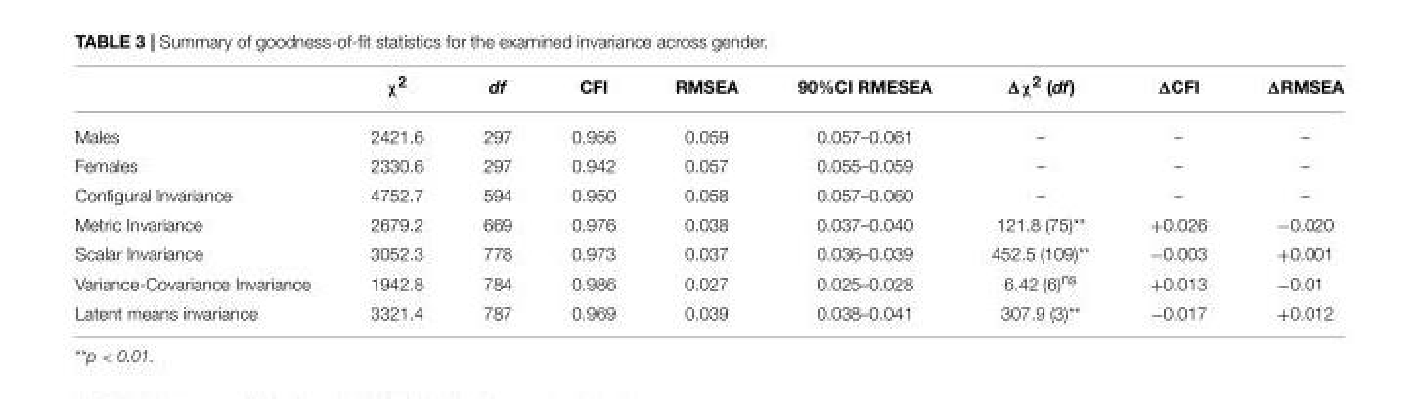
<table><thead><tr><td></td><td>χ<sup>2</sup></td><td>df</td><td>CFI</td><td>RMSEA</td><td>90%CI RMESEA</td><td>Δχ<sup>2</sup> (df)</td><td>ΔCFI</td><td>ΔRMSEA</td></tr></thead><tbody><tr><td>Males</td><td>2421.6</td><td>297</td><td>0.956</td><td>0.059</td><td>0.057–0.061</td><td>–</td><td>–</td><td>–</td></tr><tr><td>Females</td><td>2330.6</td><td>297</td><td>0.942</td><td>0.057</td><td>0.055–0.059</td><td>–</td><td>–</td><td>–</td></tr><tr><td>Configural Invariance</td><td>4752.7</td><td>594</td><td>0.950</td><td>0.058</td><td>0.057–0.060</td><td>–</td><td>–</td><td>–</td></tr><tr><td>Metric Invariance</td><td>2679.2</td><td>669</td><td>0.976</td><td>0.038</td><td>0.037–0.040</td><td>121.8 (75)**</td><td>+0.026</td><td>−0.020</td></tr><tr><td>Scalar Invariance</td><td>3052.3</td><td>778</td><td>0.973</td><td>0.037</td><td>0.036–0.039</td><td>452.5 (109)**</td><td>−0.003</td><td>+0.001</td></tr><tr><td>Variance-Covariance Invariance</td><td>1942.8</td><td>784</td><td>0.986</td><td>0.027</td><td>0.025–0.028</td><td>6.42 (6)<sup>ns</sup></td><td>+0.013</td><td>−0.01</td></tr><tr><td>Latent means invariance</td><td>3321.4</td><td>787</td><td>0.969</td><td>0.039</td><td>0.038–0.041</td><td>307.9 (3)**</td><td>−0.017</td><td>+0.012</td></tr></tbody></table>